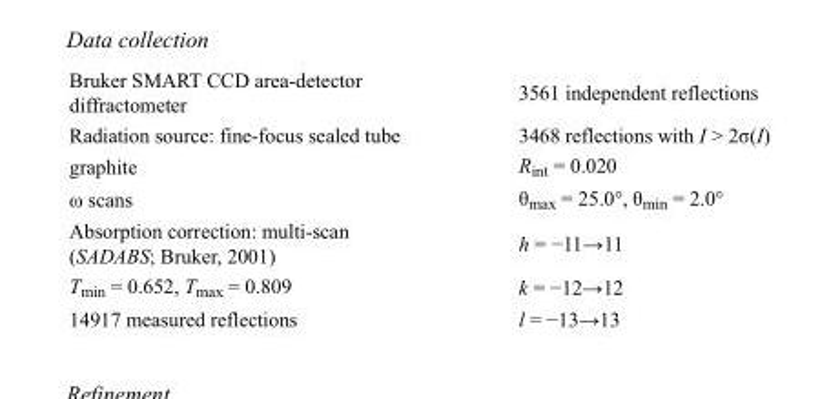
<table><tbody><tr><td>Bruker SMART CCD area-detector diffractometer</td><td>3561 independent reflections</td></tr><tr><td>Radiation source: fine-focus sealed tube</td><td>3468 reflections with I &gt; 2σ(I)</td></tr><tr><td>graphite</td><td>R<sub>int</sub> = 0.020</td></tr><tr><td>ω scans</td><td>θ<sub>max</sub> = 25.0°, θ<sub>min</sub> = 2.0°</td></tr><tr><td>Absorption correction: multi-scan (SADABS; Bruker, 2001)</td><td>h = −11→11</td></tr><tr><td>T<sub>min</sub> = 0.652, T<sub>max</sub> = 0.809</td><td>k = −12→12</td></tr><tr><td>14917 measured reflections</td><td>l = −13→13</td></tr></tbody></table>